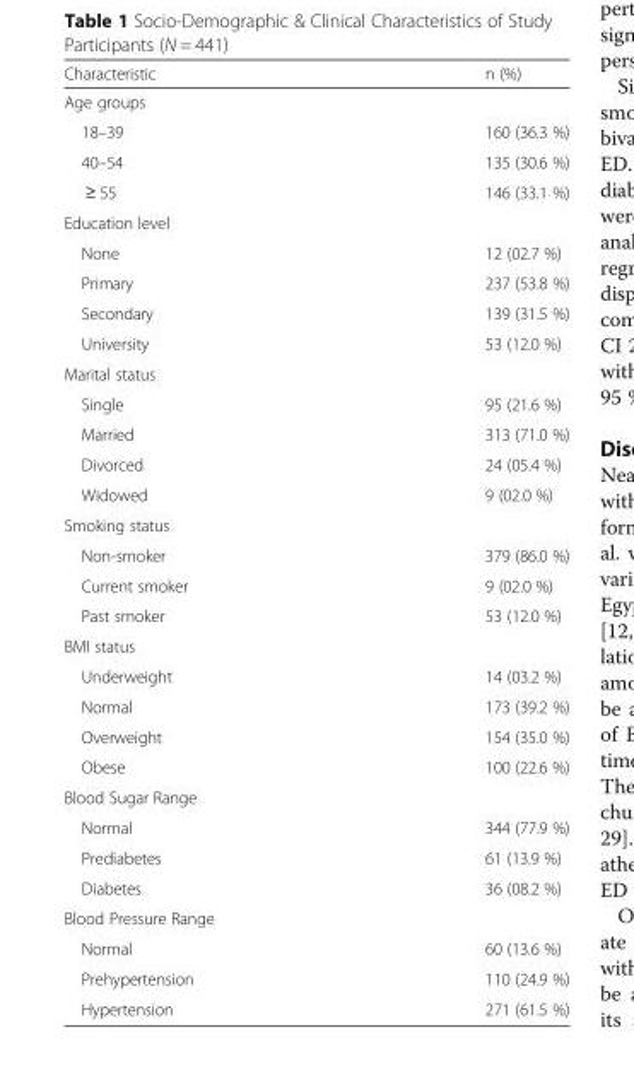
<table><thead><tr><td>Characteristic</td><td>n (%)</td></tr></thead><tbody><tr><td colspan="2">Age groups</td></tr><tr><td>18–39</td><td>160 (36.3 %)</td></tr><tr><td>40–54</td><td>135 (30.6 %)</td></tr><tr><td>≥ 55</td><td>146 (33.1 %)</td></tr><tr><td colspan="2">Education level</td></tr><tr><td>None</td><td>12 (02.7 %)</td></tr><tr><td>Primary</td><td>237 (53.8 %)</td></tr><tr><td>Secondary</td><td>139 (31.5 %)</td></tr><tr><td>University</td><td>53 (12.0 %)</td></tr><tr><td colspan="2">Marital status</td></tr><tr><td>Single</td><td>95 (21.6 %)</td></tr><tr><td>Married</td><td>313 (71.0 %)</td></tr><tr><td>Divorced</td><td>24 (05.4 %)</td></tr><tr><td>Widowed</td><td>9 (02.0 %)</td></tr><tr><td colspan="2">Smoking status</td></tr><tr><td>Non-smoker</td><td>379 (86.0 %)</td></tr><tr><td>Current smoker</td><td>9 (02.0 %)</td></tr><tr><td>Past smoker</td><td>53 (12.0 %)</td></tr><tr><td colspan="2">BMI status</td></tr><tr><td>Underweight</td><td>14 (03.2 %)</td></tr><tr><td>Normal</td><td>173 (39.2 %)</td></tr><tr><td>Overweight</td><td>154 (35.0 %)</td></tr><tr><td>Obese</td><td>100 (22.6 %)</td></tr><tr><td colspan="2">Blood Sugar Range</td></tr><tr><td>Normal</td><td>344 (77.9 %)</td></tr><tr><td>Prediabetes</td><td>61 (13.9 %)</td></tr><tr><td>Diabetes</td><td>36 (08.2 %)</td></tr><tr><td colspan="2">Blood Pressure Range</td></tr><tr><td>Normal</td><td>60 (13.6 %)</td></tr><tr><td>Prehypertension</td><td>110 (24.9 %)</td></tr><tr><td>Hypertension</td><td>271 (61.5 %)</td></tr></tbody></table>